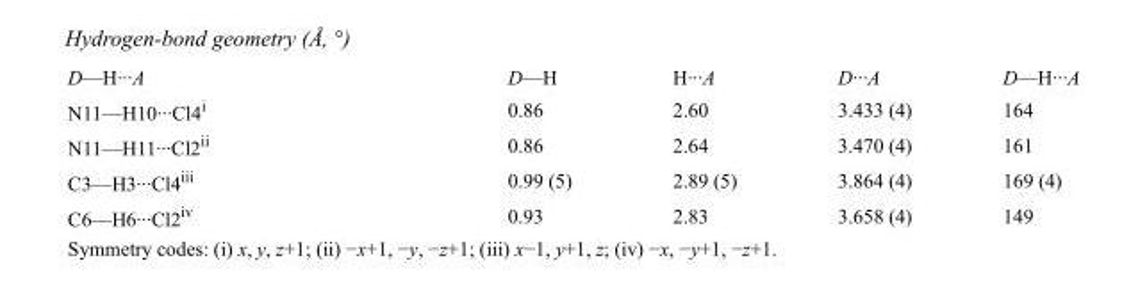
<table><tbody><tr><td>D—H···A</td><td>D—H</td><td>H···A</td><td>D···A</td><td>D—H···A</td></tr><tr><td>N11—H10···Cl4<sup>i</sup></td><td>0.86</td><td>2.60</td><td>3.433 (4)</td><td>164</td></tr><tr><td>N11—H11···Cl2<sup>ii</sup></td><td>0.86</td><td>2.64</td><td>3.470 (4)</td><td>161</td></tr><tr><td>C3—H3···Cl4<sup>iii</sup></td><td>0.99 (5)</td><td>2.89 (5)</td><td>3.864 (4)</td><td>169 (4)</td></tr><tr><td>C6—H6···Cl2<sup>iv</sup></td><td>0.93</td><td>2.83</td><td>3.658 (4)</td><td>149</td></tr></tbody></table>